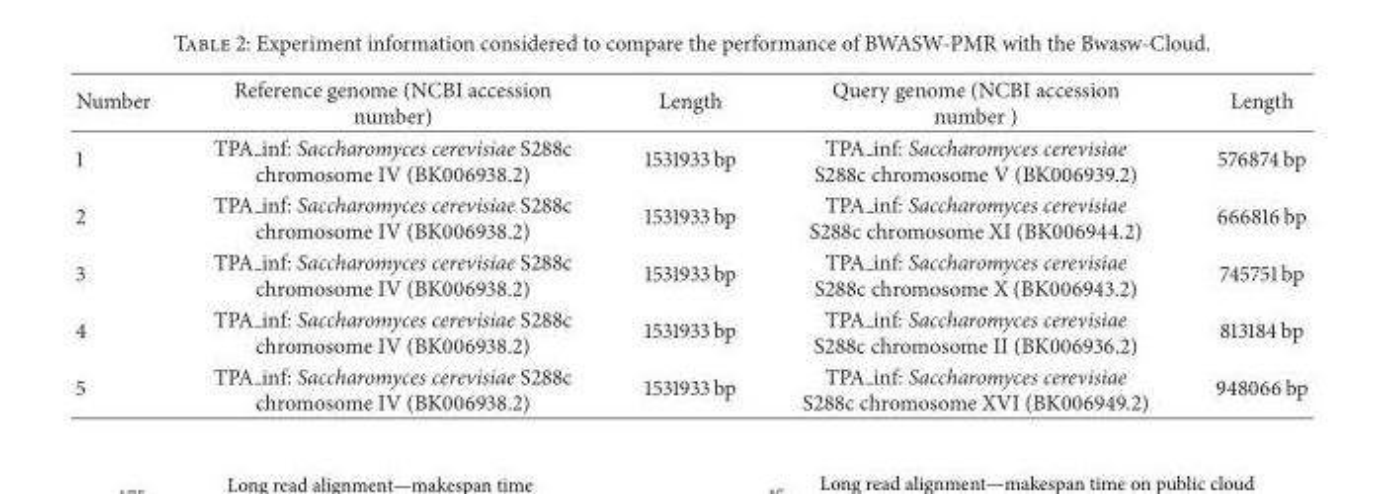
<table><thead><tr><td>Number</td><td>Reference genome (NCBI accession number)</td><td>Length</td><td>Query genome (NCBI accession number )</td><td>Length</td></tr></thead><tbody><tr><td>1</td><td>TPA inf: Saccharomyces cerevisiae S288c chromosome IV (BK006938.2)</td><td>1531933 bp</td><td>TPA inf: Saccharomyces cerevisiae S288c chromosome V (BK006939.2)</td><td>576874 bp</td></tr><tr><td>2</td><td>TPA inf: Saccharomyces cerevisiae S288c chromosome IV (BK006938.2)</td><td>1531933 bp</td><td>TPA inf: Saccharomyces cerevisiae S288c chromosome XI (BK006944.2)</td><td>666816 bp</td></tr><tr><td>3</td><td>TPA inf: Saccharomyces cerevisiae S288c chromosome IV (BK006938.2)</td><td>1531933 bp</td><td>TPA inf: Saccharomyces cerevisiae S288c chromosome X (BK006943.2)</td><td>745751 bp</td></tr><tr><td>4</td><td>TPA inf: Saccharomyces cerevisiae S288c chromosome IV (BK006938.2)</td><td>1531933 bp</td><td>TPA inf: Saccharomyces cerevisiae S288c chromosome II (BK006936.2)</td><td>813184 bp</td></tr><tr><td>5</td><td>TPA inf: Saccharomyces cerevisiae S288c chromosome IV (BK006938.2)</td><td>1531933 bp</td><td>TPA inf: Saccharomyces cerevisiae S288c chromosome XVI (BK006949.2)</td><td>948066 bp</td></tr></tbody></table>